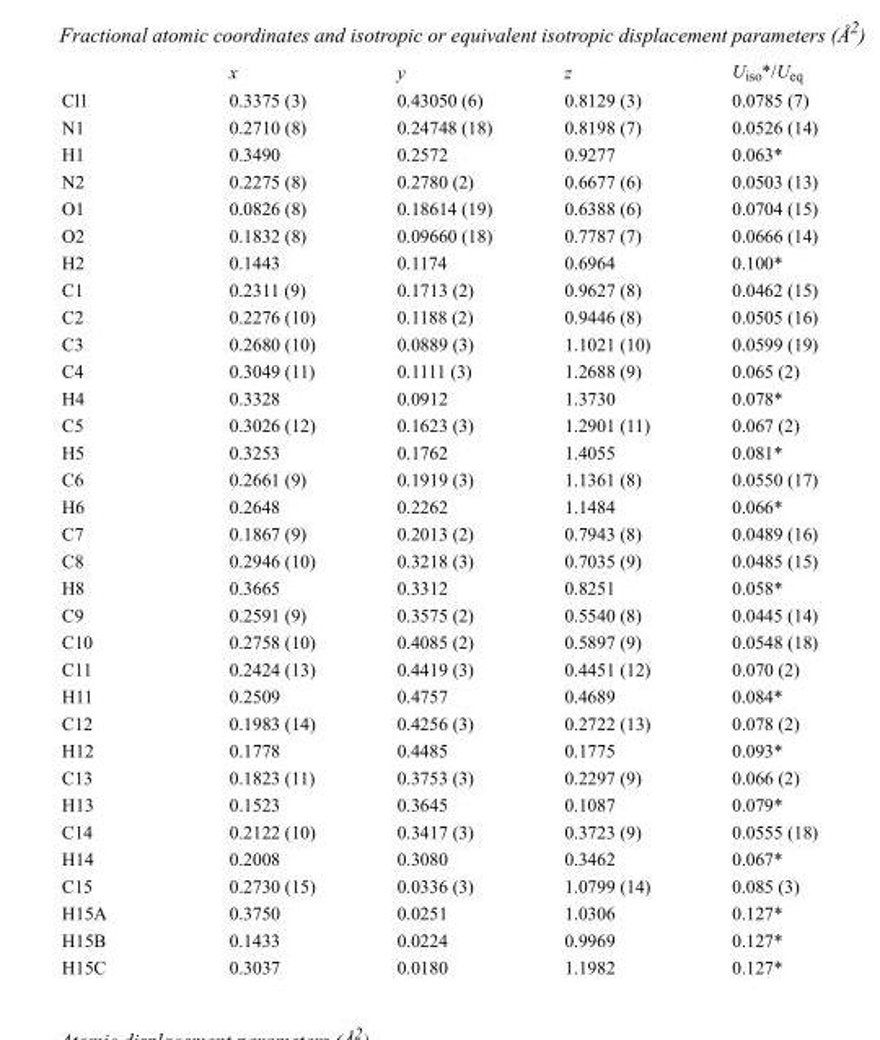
<table><thead><tr><td></td><td>x</td><td>y</td><td>z</td><td>U<sub>iso</sub>*/U<sub>eq</sub></td></tr></thead><tbody><tr><td>Cl1</td><td>0.3375 (3)</td><td>0.43050 (6)</td><td>0.8129 (3)</td><td>0.0785 (7)</td></tr><tr><td>N1</td><td>0.2710 (8)</td><td>0.24748 (18)</td><td>0.8198 (7)</td><td>0.0526 (14)</td></tr><tr><td>H1</td><td>0.3490</td><td>0.2572</td><td>0.9277</td><td>0.063*</td></tr><tr><td>N2</td><td>0.2275 (8)</td><td>0.2780 (2)</td><td>0.6677 (6)</td><td>0.0503 (13)</td></tr><tr><td>O1</td><td>0.0826 (8)</td><td>0.18614 (19)</td><td>0.6388 (6)</td><td>0.0704 (15)</td></tr><tr><td>O2</td><td>0.1832 (8)</td><td>0.09660 (18)</td><td>0.7787 (7)</td><td>0.0666 (14)</td></tr><tr><td>H2</td><td>0.1443</td><td>0.1174</td><td>0.6964</td><td>0.100*</td></tr><tr><td>C1</td><td>0.2311 (9)</td><td>0.1713 (2)</td><td>0.9627 (8)</td><td>0.0462 (15)</td></tr><tr><td>C2</td><td>0.2276 (10)</td><td>0.1188 (2)</td><td>0.9446 (8)</td><td>0.0505 (16)</td></tr><tr><td>C3</td><td>0.2680 (10)</td><td>0.0889 (3)</td><td>1.1021 (10)</td><td>0.0599 (19)</td></tr><tr><td>C4</td><td>0.3049 (11)</td><td>0.1111 (3)</td><td>1.2688 (9)</td><td>0.065 (2)</td></tr><tr><td>H4</td><td>0.3328</td><td>0.0912</td><td>1.3730</td><td>0.078*</td></tr><tr><td>C5</td><td>0.3026 (12)</td><td>0.1623 (3)</td><td>1.2901 (11)</td><td>0.067 (2)</td></tr><tr><td>H5</td><td>0.3253</td><td>0.1762</td><td>1.4055</td><td>0.081*</td></tr><tr><td>C6</td><td>0.2661 (9)</td><td>0.1919 (3)</td><td>1.1361 (8)</td><td>0.0550 (17)</td></tr><tr><td>H6</td><td>0.2648</td><td>0.2262</td><td>1.1484</td><td>0.066*</td></tr><tr><td>C7</td><td>0.1867 (9)</td><td>0.2013 (2)</td><td>0.7943 (8)</td><td>0.0489 (16)</td></tr><tr><td>C8</td><td>0.2946 (10)</td><td>0.3218 (3)</td><td>0.7035 (9)</td><td>0.0485 (15)</td></tr><tr><td>H8</td><td>0.3665</td><td>0.3312</td><td>0.8251</td><td>0.058*</td></tr><tr><td>C9</td><td>0.2591 (9)</td><td>0.3575 (2)</td><td>0.5540 (8)</td><td>0.0445 (14)</td></tr><tr><td>C10</td><td>0.2758 (10)</td><td>0.4085 (2)</td><td>0.5897 (9)</td><td>0.0548 (18)</td></tr><tr><td>C11</td><td>0.2424 (13)</td><td>0.4419 (3)</td><td>0.4451 (12)</td><td>0.070 (2)</td></tr><tr><td>H11</td><td>0.2509</td><td>0.4757</td><td>0.4689</td><td>0.084*</td></tr><tr><td>C12</td><td>0.1983 (14)</td><td>0.4256 (3)</td><td>0.2722 (13)</td><td>0.078 (2)</td></tr><tr><td>H12</td><td>0.1778</td><td>0.4485</td><td>0.1775</td><td>0.093*</td></tr><tr><td>C13</td><td>0.1823 (11)</td><td>0.3753 (3)</td><td>0.2297 (9)</td><td>0.066 (2)</td></tr><tr><td>H13</td><td>0.1523</td><td>0.3645</td><td>0.1087</td><td>0.079*</td></tr><tr><td>C14</td><td>0.2122 (10)</td><td>0.3417 (3)</td><td>0.3723 (9)</td><td>0.0555 (18)</td></tr><tr><td>H14</td><td>0.2008</td><td>0.3080</td><td>0.3462</td><td>0.067*</td></tr><tr><td>C15</td><td>0.2730 (15)</td><td>0.0336 (3)</td><td>1.0799 (14)</td><td>0.085 (3)</td></tr><tr><td>H15A</td><td>0.3750</td><td>0.0251</td><td>1.0306</td><td>0.127*</td></tr><tr><td>H15B</td><td>0.1433</td><td>0.0224</td><td>0.9969</td><td>0.127*</td></tr><tr><td>H15C</td><td>0.3037</td><td>0.0180</td><td>1.1982</td><td>0.127*</td></tr></tbody></table>